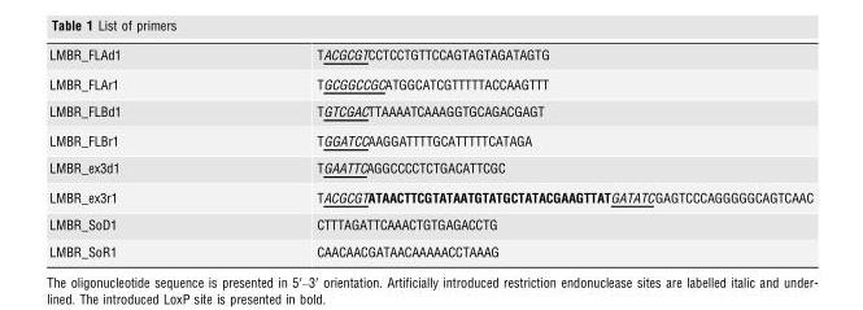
<table><tbody><tr><td>LMBR_FLAd1</td><td>TACGCGTCCTCCTGTTCCAGTAGTAGATAGTG</td></tr><tr><td>LMBR_FLAr1</td><td>TGCGGCCGCATGGCATCGTTTTTACCAAGTTT</td></tr><tr><td>LMBR_FLBd1</td><td>TGTCGACTTAAAATCAAAGGTGCAGACGAGT</td></tr><tr><td>LMBR_FLBr1</td><td>TGGATCCAAGGATTTTGCATTTTTCATAGA</td></tr><tr><td>LMBR_ex3d1</td><td>TGAATTCAGGCCCCTCTGACATTCGC</td></tr><tr><td>LMBR_ex3r1</td><td>TACGCGTATAACTTCGTATAATGTATGCTATACGAAGTTATGATATCGAGTCCCAGGGGGCAGTCAAC</td></tr><tr><td>LMBR_SoD1</td><td>CTTTAGATTCAAACTGTGAGACCTG</td></tr><tr><td>LMBR_SoR1</td><td>CAACAACGATAACAAAAACCTAAAG</td></tr></tbody></table>